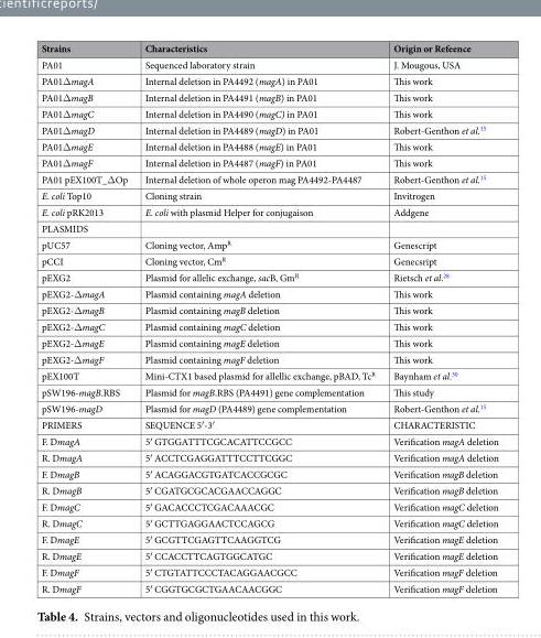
<table><thead><tr><td>Strains</td><td>Characteristics</td><td>Origin or Refeence</td></tr></thead><tbody><tr><td>PA01</td><td>Sequenced laboratory strain</td><td>J. Mougous, USA</td></tr><tr><td>PA01ΔmagA</td><td>Internal deletion in PA4492 (magA) in PA01</td><td>This work</td></tr><tr><td>PA01ΔmagB</td><td>Internal deletion in PA4491 (magB) in PA01</td><td>This work</td></tr><tr><td>PA01ΔmagC</td><td>Internal deletion in PA4490 (magC) in PA01</td><td>This work</td></tr><tr><td>PA01ΔmagD</td><td>Internal deletion in PA4489 (magD) in PA01</td><td>Robert-Genthon et al.<sup>15</sup></td></tr><tr><td>PA01ΔmagE</td><td>Internal deletion in PA4488 (magE) in PA01</td><td>This work</td></tr><tr><td>PA01ΔmagF</td><td>Internal deletion in PA4487 (magF) in PA01</td><td>This work</td></tr><tr><td>PA01 pEX100T_ΔOp</td><td>Internal deletion of whole operon mag PA4492-PA4487</td><td>Robert-Genthon et al.<sup>15</sup></td></tr><tr><td>E. coli Top10</td><td>Cloning strain</td><td>Invitrogen</td></tr><tr><td>E. coli pRK2013</td><td>E. coli with plasmid Helper for conjugaison</td><td>Addgene</td></tr><tr><td colspan="3">PLASMIDS</td></tr><tr><td>pUC57</td><td>Cloning vector, Amp<sup>R</sup></td><td>Genescript</td></tr><tr><td>pCCI</td><td>Cloning vector, Cm<sup>R</sup></td><td>Genecsript</td></tr><tr><td>pEXG2</td><td>Plasmid for allelic exchange, sacB, Gm<sup>R</sup></td><td>Rietsch et al.<sup>28</sup></td></tr><tr><td>pEXG2-ΔmagA</td><td>Plasmid containing magA deletion</td><td>This work</td></tr><tr><td>pEXG2-ΔmagB</td><td>Plasmid containing magB deletion</td><td>This work</td></tr><tr><td>pEXG2-ΔmagC</td><td>Plasmid containing magC deletion</td><td>This work</td></tr><tr><td>pEXG2-ΔmagE</td><td>Plasmid containing magE deletion</td><td>This work</td></tr><tr><td>pEXG2-ΔmagF</td><td>Plasmid containing magF deletion</td><td>This work</td></tr><tr><td>pEX100T</td><td>Mini-CTX1 based plasmid for allellic exchange, pBAD, Tc<sup>R</sup></td><td>Baynham et al.<sup>30</sup></td></tr><tr><td>pSW196-magB.RBS</td><td>Plasmid for magB.RBS (PA4491) gene complementation</td><td>This study</td></tr><tr><td>pSW196-magD</td><td>Plasmid for magD (PA4489) gene complementation</td><td>Robert-Genthon et al.<sup>15</sup></td></tr><tr><td>PRIMERS</td><td>SEQUENCE 5′-3′</td><td>CHARACTERISTIC</td></tr><tr><td>F. DmagA</td><td>5′ GTGGATTTCGCACATTCCGCC</td><td>Verification magA deletion</td></tr><tr><td>R. DmagA</td><td>5′ ACCTCGAGGATTTCCTTCGGC</td><td>Verification magA deletion</td></tr><tr><td>F. DmagB</td><td>5′ ACAGGACGTGATCACCGCGC</td><td>Verification magB deletion</td></tr><tr><td>R. DmagB</td><td>5′ CGATGCGCACGAACCAGGC</td><td>Verification magB deletion</td></tr><tr><td>F. DmagC</td><td>5′ GACACCCTCGACAAACGC</td><td>Verification magC deletion</td></tr><tr><td>R. DmagC</td><td>5′ GCTTGAGGAACTCCAGCG</td><td>Verification magC deletion</td></tr><tr><td>F. DmagE</td><td>5′ GCGTTCGAGTTCAAGGTCG</td><td>Verification magE deletion</td></tr><tr><td>R. DmagE</td><td>5′ CCACCTTCAGTGGCATGC</td><td>Verification magE deletion</td></tr><tr><td>F. DmagF</td><td>5′ CTGTATTCCCTACAGGAACGCC</td><td>Verification magF deletion</td></tr><tr><td>R. DmagF</td><td>5′ CGGTGCGCTGAACAACGGC</td><td>Verification magF deletion</td></tr></tbody></table>